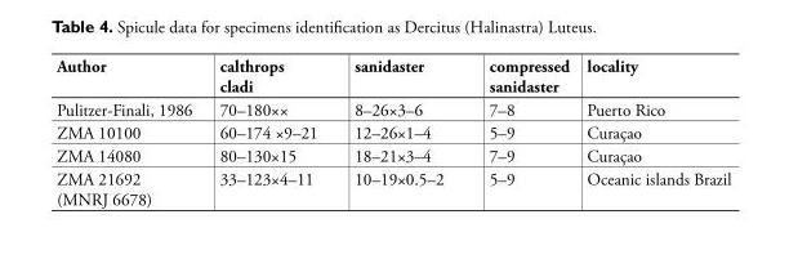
<table><thead><tr><td>Author</td><td>calthrops cladi</td><td>sanidaster</td><td>compressed sanidaster</td><td>locality</td></tr></thead><tbody><tr><td>Pulitzer-Finali, 1986</td><td>70–180××</td><td>8–26×3–6</td><td>7–8</td><td>Puerto Rico</td></tr><tr><td>ZMA 10100</td><td>60–174 ×9–21</td><td>12–26×1–4</td><td>5–9</td><td>Curaçao</td></tr><tr><td>ZMA 14080</td><td>80–130×15</td><td>18–21×3–4</td><td>7–9</td><td>Curaçao</td></tr><tr><td>ZMA 21692 (MNRJ 6678)</td><td>33–123×4–11</td><td>10–19×0.5–2</td><td>5–9</td><td>Oceanic islands Brazil</td></tr></tbody></table>